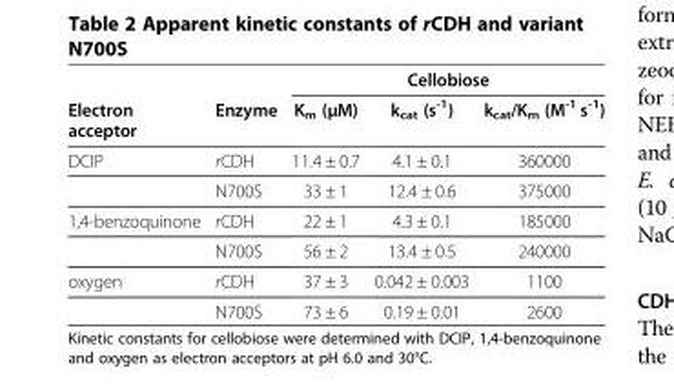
<table><thead><tr><td rowspan="2">Electron acceptor</td><td rowspan="2">Enzyme</td><td colspan="3">Cellobiose</td></tr><tr><td>K<sub>m</sub> (μM)</td><td>k<sub>cat</sub> (s<sup>-1</sup>)</td><td>k<sub>cat</sub>/K<sub>m</sub> (M<sup>-1</sup> s<sup>-1</sup>)</td></tr></thead><tbody><tr><td rowspan="2">DCIP</td><td>rCDH</td><td>11.4 ± 0.7</td><td>4.1 ± 0.1</td><td>360000</td></tr><tr><td>N700S</td><td>33 ± 1</td><td>12.4 ± 0.6</td><td>375000</td></tr><tr><td rowspan="2">1,4-benzoquinone</td><td>rCDH</td><td>22 ± 1</td><td>4.3 ± 0.1</td><td>185000</td></tr><tr><td>N700S</td><td>56 ± 2</td><td>13.4 ± 0.5</td><td>240000</td></tr><tr><td rowspan="2">oxygen</td><td>rCDH</td><td>37 ± 3</td><td>0.042 ± 0.003</td><td>1100</td></tr><tr><td>N700S</td><td>73 ± 6</td><td>0.19 ± 0.01</td><td>2600</td></tr></tbody></table>